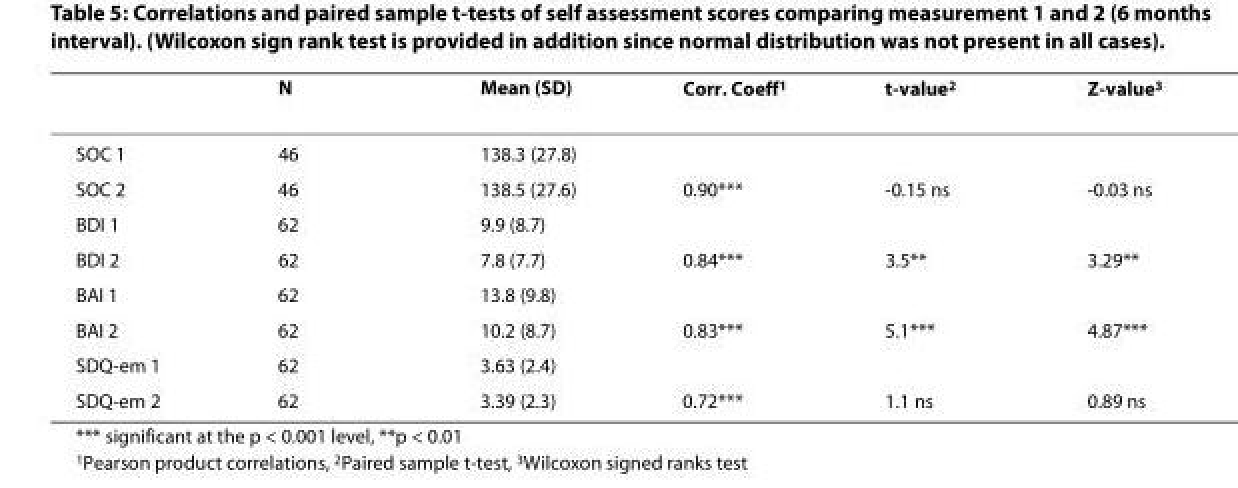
<table><thead><tr><td></td><td>N</td><td>Mean (SD)</td><td>Corr. Coeff<sup>1</sup></td><td>t-value<sup>2</sup></td><td>Z-value<sup>3</sup></td></tr></thead><tbody><tr><td>SOC 1</td><td>46</td><td>138.3 (27.8)</td><td></td><td></td><td></td></tr><tr><td>SOC 2</td><td>46</td><td>138.5 (27.6)</td><td>0.90***</td><td>-0.15 ns</td><td>-0.03 ns</td></tr><tr><td>BDI 1</td><td>62</td><td>9.9 (8.7)</td><td></td><td></td><td></td></tr><tr><td>BDI 2</td><td>62</td><td>7.8 (7.7)</td><td>0.84***</td><td>3.5**</td><td>3.29**</td></tr><tr><td>BAI 1</td><td>62</td><td>13.8 (9.8)</td><td></td><td></td><td></td></tr><tr><td>BAI 2</td><td>62</td><td>10.2 (8.7)</td><td>0.83***</td><td>5.1***</td><td>4.87***</td></tr><tr><td>SDQ-em 1</td><td>62</td><td>3.63 (2.4)</td><td></td><td></td><td></td></tr><tr><td>SDQ-em 2</td><td>62</td><td>3.39 (2.3)</td><td>0.72***</td><td>1.1 ns</td><td>0.89 ns</td></tr></tbody></table>